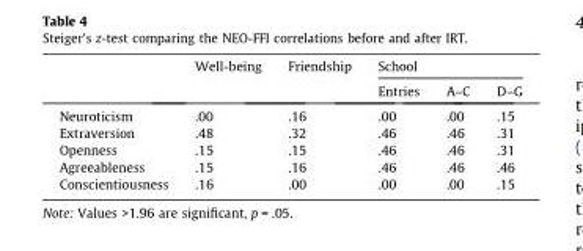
<table><thead><tr><td rowspan="2"></td><td rowspan="2">Well-being</td><td rowspan="2">Friendship</td><td colspan="3">School</td></tr><tr><td>Entries</td><td>A–C</td><td>D–G</td></tr></thead><tbody><tr><td>Neuroticism</td><td>.00</td><td>.16</td><td>.00</td><td>.00</td><td>.15</td></tr><tr><td>Extraversion</td><td>.48</td><td>.32</td><td>.46</td><td>.46</td><td>.31</td></tr><tr><td>Openness</td><td>.15</td><td>.15</td><td>.46</td><td>.46</td><td>.31</td></tr><tr><td>Agreeableness</td><td>.15</td><td>.16</td><td>.46</td><td>.46</td><td>.46</td></tr><tr><td>Conscientiousness</td><td>.16</td><td>.00</td><td>.00</td><td>.00</td><td>.15</td></tr></tbody></table>